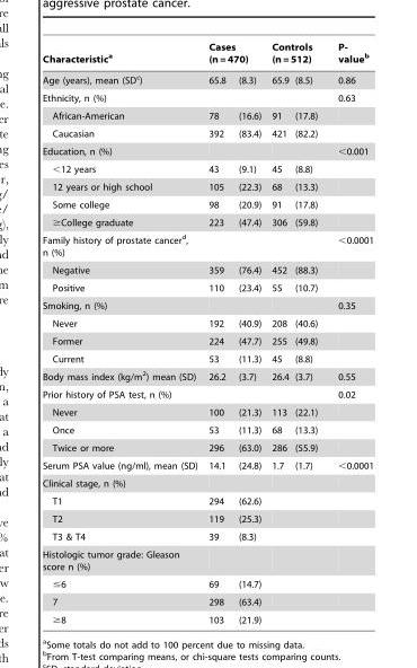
<table><thead><tr><td rowspan="2">Characteristic<sup>a</sup> Age (years), mean (SD<sup>c</sup>)</td><td colspan="2">Cases (n = 470)</td><td colspan="2">Controls (n = 512)</td><td rowspan="2">P- value<sup>b</sup> 0.86</td></tr><tr><td>65.8</td><td>(8.3)</td><td>65.9</td><td>(8.5)</td></tr></thead><tbody><tr><td>Ethnicity, n (%)</td><td></td><td></td><td></td><td></td><td>0.63</td></tr><tr><td>African-American</td><td>78</td><td>(16.6)</td><td>91</td><td>(17.8)</td><td></td></tr><tr><td>Caucasian</td><td>392</td><td>(83.4)</td><td>421</td><td>(82.2)</td><td></td></tr><tr><td>Education, n (%)</td><td></td><td></td><td></td><td></td><td>&lt;0.001</td></tr><tr><td>&lt;12 years</td><td>43</td><td>(9.1)</td><td>45</td><td>(8.8)</td><td></td></tr><tr><td>12 years or high school</td><td>105</td><td>(22.3)</td><td>68</td><td>(13.3)</td><td></td></tr><tr><td>Some college</td><td>98</td><td>(20.9)</td><td>91</td><td>(17.8)</td><td></td></tr><tr><td>≥College graduate</td><td>223</td><td>(47.4)</td><td>306</td><td>(59.8)</td><td></td></tr><tr><td>Family history of prostate cancer<sup>d</sup>, n (%)</td><td></td><td></td><td></td><td></td><td>&lt;0.0001</td></tr><tr><td>Negative</td><td>359</td><td>(76.4)</td><td>452</td><td>(88.3)</td><td></td></tr><tr><td>Positive</td><td>110</td><td>(23.4)</td><td>55</td><td>(10.7)</td><td></td></tr><tr><td>Smoking, n (%)</td><td></td><td></td><td></td><td></td><td>0.35</td></tr><tr><td>Never</td><td>192</td><td>(40.9)</td><td>208</td><td>(40.6)</td><td></td></tr><tr><td>Former</td><td>224</td><td>(47.7)</td><td>255</td><td>(49.8)</td><td></td></tr><tr><td>Current</td><td>53</td><td>(11.3)</td><td>45</td><td>(8.8)</td><td></td></tr><tr><td>Body mass index (kg/m<sup>2</sup>) mean (SD)</td><td>26.2</td><td>(3.7)</td><td>26.4</td><td>(3.7)</td><td>0.55</td></tr><tr><td>Prior history of PSA test, n (%)</td><td></td><td></td><td></td><td></td><td>0.02</td></tr><tr><td>Never</td><td>100</td><td>(21.3)</td><td>113</td><td>(22.1)</td><td></td></tr><tr><td>Once</td><td>53</td><td>(11.3)</td><td>68</td><td>(13.3)</td><td></td></tr><tr><td>Twice or more</td><td>296</td><td>(63.0)</td><td>286</td><td>(55.9)</td><td></td></tr><tr><td>Serum PSA value (ng/ml), mean (SD)</td><td>14.1</td><td>(24.8)</td><td>1.7</td><td>(1.7)</td><td>&lt;0.0001</td></tr><tr><td colspan="6">Clinical stage, n (%)</td></tr><tr><td>T1</td><td>294</td><td>(62.6)</td><td></td><td></td><td></td></tr><tr><td>T2</td><td>119</td><td>(25.3)</td><td></td><td></td><td></td></tr><tr><td>T3 &amp; T4</td><td>39</td><td>(8.3)</td><td></td><td></td><td></td></tr><tr><td colspan="6">Histologic tumor grade: Gleason score n (%)</td></tr><tr><td>≤6</td><td>69</td><td>(14.7)</td><td></td><td></td><td></td></tr><tr><td>7</td><td>298</td><td>(63.4)</td><td></td><td></td><td></td></tr><tr><td>≥8</td><td>103</td><td>(21.9)</td><td></td><td></td><td></td></tr></tbody></table>